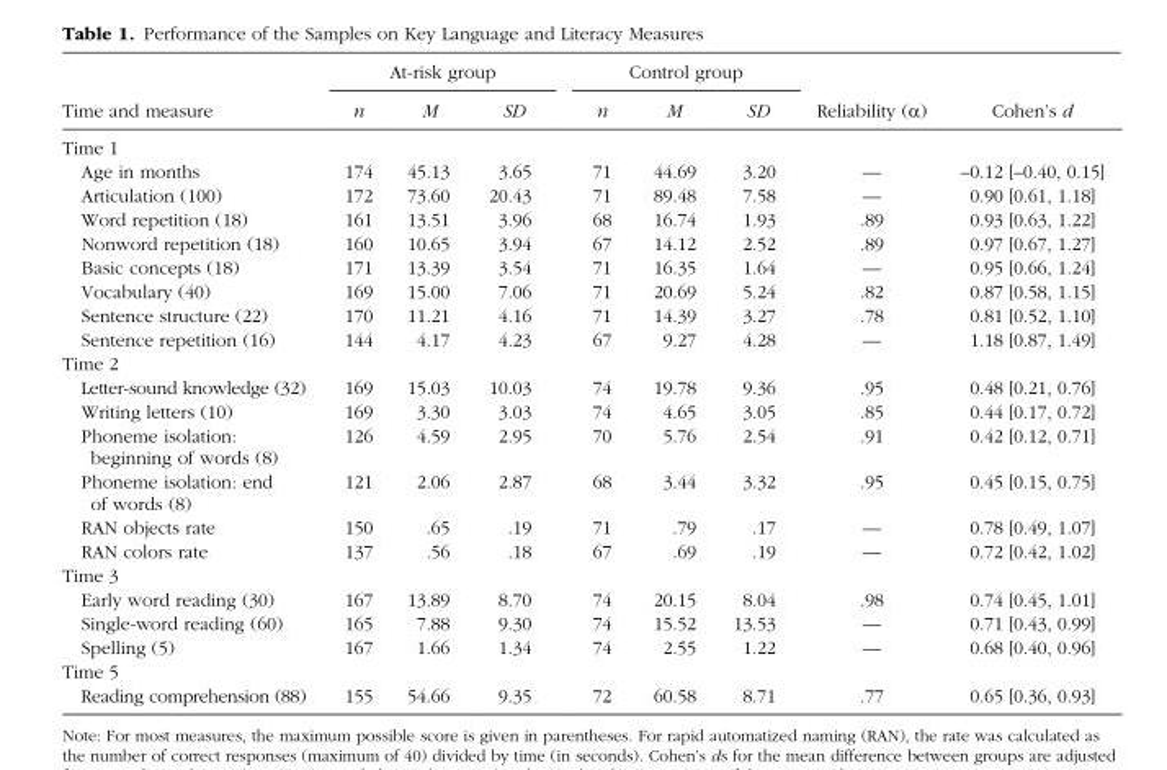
<table><thead><tr><td rowspan="2">Time and measure</td><td colspan="3">At-risk group</td><td colspan="3">Control group</td><td rowspan="2">Reliability (α)</td><td rowspan="2">Cohen’s d</td></tr><tr><td>n</td><td>M</td><td>SD</td><td>n</td><td>M</td><td>SD</td></tr></thead><tbody><tr><td colspan="9">Time 1</td></tr><tr><td>Age in months</td><td>174</td><td>45.13</td><td>3.65</td><td>71</td><td>44.69</td><td>3.20</td><td>—</td><td>–0.12 [–0.40, 0.15]</td></tr><tr><td>Articulation (100)</td><td>172</td><td>73.60</td><td>20.43</td><td>71</td><td>89.48</td><td>7.58</td><td>—</td><td>0.90 [0.61, 1.18]</td></tr><tr><td>Word repetition (18)</td><td>161</td><td>13.51</td><td>3.96</td><td>68</td><td>16.74</td><td>1.93</td><td>.89</td><td>0.93 [0.63, 1.22]</td></tr><tr><td>Nonword repetition (18)</td><td>160</td><td>10.65</td><td>3.94</td><td>67</td><td>14.12</td><td>2.52</td><td>.89</td><td>0.97 [0.67, 1.27]</td></tr><tr><td>Basic concepts (18)</td><td>171</td><td>13.39</td><td>3.54</td><td>71</td><td>16.35</td><td>1.64</td><td>—</td><td>0.95 [0.66, 1.24]</td></tr><tr><td>Vocabulary (40)</td><td>169</td><td>15.00</td><td>7.06</td><td>71</td><td>20.69</td><td>5.24</td><td>.82</td><td>0.87 [0.58, 1.15]</td></tr><tr><td>Sentence structure (22)</td><td>170</td><td>11.21</td><td>4.16</td><td>71</td><td>14.39</td><td>3.27</td><td>.78</td><td>0.81 [0.52, 1.10]</td></tr><tr><td>Sentence repetition (16)</td><td>144</td><td>4.17</td><td>4.23</td><td>67</td><td>9.27</td><td>4.28</td><td>—</td><td>1.18 [0.87, 1.49]</td></tr><tr><td colspan="9">Time 2</td></tr><tr><td>Letter-sound knowledge (32)</td><td>169</td><td>15.03</td><td>10.03</td><td>74</td><td>19.78</td><td>9.36</td><td>.95</td><td>0.48 [0.21, 0.76]</td></tr><tr><td>Writing letters (10)</td><td>169</td><td>3.30</td><td>3.03</td><td>74</td><td>4.65</td><td>3.05</td><td>.85</td><td>0.44 [0.17, 0.72]</td></tr><tr><td>Phoneme isolation: beginning of words (8)</td><td>126</td><td>4.59</td><td>2.95</td><td>70</td><td>5.76</td><td>2.54</td><td>.91</td><td>0.42 [0.12, 0.71]</td></tr><tr><td>Phoneme isolation: end of words (8)</td><td>121</td><td>2.06</td><td>2.87</td><td>68</td><td>3.44</td><td>3.32</td><td>.95</td><td>0.45 [0.15, 0.75]</td></tr><tr><td>RAN objects rate</td><td>150</td><td>.65</td><td>.19</td><td>71</td><td>.79</td><td>.17</td><td>—</td><td>0.78 [0.49, 1.07]</td></tr><tr><td>RAN colors rate</td><td>137</td><td>.56</td><td>.18</td><td>67</td><td>.69</td><td>.19</td><td>—</td><td>0.72 [0.42, 1.02]</td></tr><tr><td colspan="9">Time 3</td></tr><tr><td>Early word reading (30)</td><td>167</td><td>13.89</td><td>8.70</td><td>74</td><td>20.15</td><td>8.04</td><td>.98</td><td>0.74 [0.45, 1.01]</td></tr><tr><td>Single-word reading (60)</td><td>165</td><td>7.88</td><td>9.30</td><td>74</td><td>15.52</td><td>13.53</td><td>—</td><td>0.71 [0.43, 0.99]</td></tr><tr><td>Spelling (5)</td><td>167</td><td>1.66</td><td>1.34</td><td>74</td><td>2.55</td><td>1.22</td><td>—</td><td>0.68 [0.40, 0.96]</td></tr><tr><td colspan="9">Time 5</td></tr><tr><td>Reading comprehension (88)</td><td>155</td><td>54.66</td><td>9.35</td><td>72</td><td>60.58</td><td>8.71</td><td>.77</td><td>0.65 [0.36, 0.93]</td></tr></tbody></table>